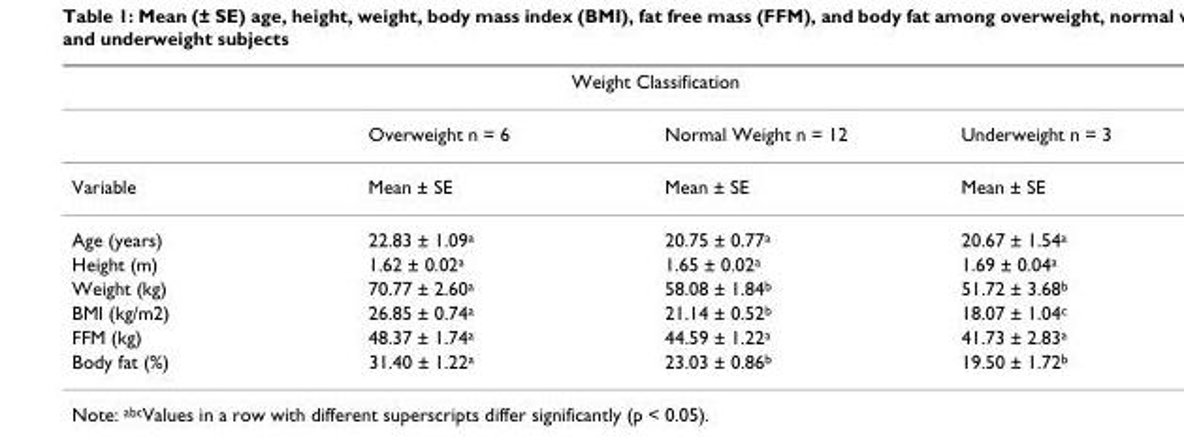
<table><thead><tr><td colspan="4">Weight Classification</td></tr><tr><td></td><td>Overweight n = 6</td><td>Normal Weight n = 12</td><td>Underweight n = 3</td></tr></thead><tbody><tr><td>Variable</td><td>Mean ± SE</td><td>Mean ± SE</td><td>Mean ± SE</td></tr><tr><td>Age (years)</td><td>22.83 ± 1.09<sup>a</sup></td><td>20.75 ± 0.77<sup>a</sup></td><td>20.67 ± 1.54<sup>a</sup></td></tr><tr><td>Height (m)</td><td>1.62 ± 0.02<sup>a</sup></td><td>1.65 ± 0.02<sup>a</sup></td><td>1.69 ± 0.04<sup>a</sup></td></tr><tr><td>Weight (kg)</td><td>70.77 ± 2.60<sup>a</sup></td><td>58.08 ± 1.84<sup>b</sup></td><td>51.72 ± 3.68<sup>b</sup></td></tr><tr><td>BMI (kg/m2)</td><td>26.85 ± 0.74<sup>a</sup></td><td>21.14 ± 0.52<sup>b</sup></td><td>18.07 ± 1.04<sup>c</sup></td></tr><tr><td>FFM (kg)</td><td>48.37 ± 1.74<sup>a</sup></td><td>44.59 ± 1.22<sup>a</sup></td><td>41.73 ± 2.83<sup>a</sup></td></tr><tr><td>Body fat (%)</td><td>31.40 ± 1.22<sup>a</sup></td><td>23.03 ± 0.86<sup>b</sup></td><td>19.50 ± 1.72<sup>b</sup></td></tr></tbody></table>